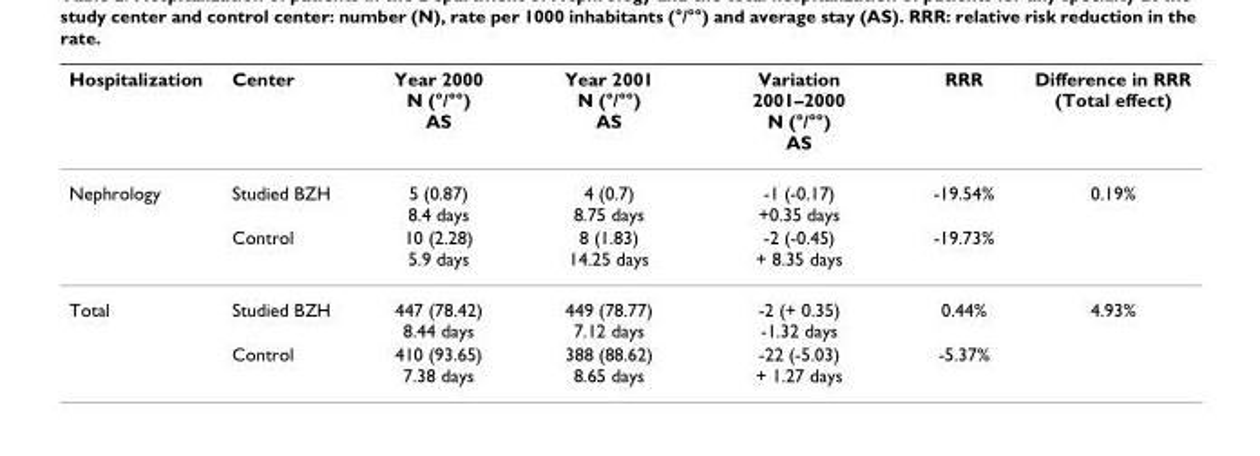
<table><thead><tr><td>Hospitalization</td><td>Center</td><td>Year 2000 N (°/°°) AS</td><td>Year 2001 N (°/°°) AS</td><td>Variation 2001–2000 N (°/°°) AS</td><td>RRR</td><td>Difference in RRR (Total effect)</td></tr></thead><tbody><tr><td rowspan="2">Nephrology</td><td>Studied BZH</td><td>5 (0.87) 8.4 days</td><td>4 (0.7) 8.75 days</td><td>-1 (-0.17) +0.35 days</td><td>-19.54%</td><td>0.19%</td></tr><tr><td>Control</td><td>10 (2.28) 5.9 days</td><td>8 (1.83) 14.25 days</td><td>-2 (-0.45) + 8.35 days</td><td>-19.73%</td><td></td></tr><tr><td rowspan="2">Total</td><td>Studied BZH</td><td>447 (78.42) 8.44 days</td><td>449 (78.77) 7.12 days</td><td>-2 (+ 0.35) -1.32 days</td><td>0.44%</td><td>4.93%</td></tr><tr><td>Control</td><td>410 (93.65) 7.38 days</td><td>388 (88.62) 8.65 days</td><td>-22 (-5.03) + 1.27 days</td><td>-5.37%</td><td></td></tr></tbody></table>